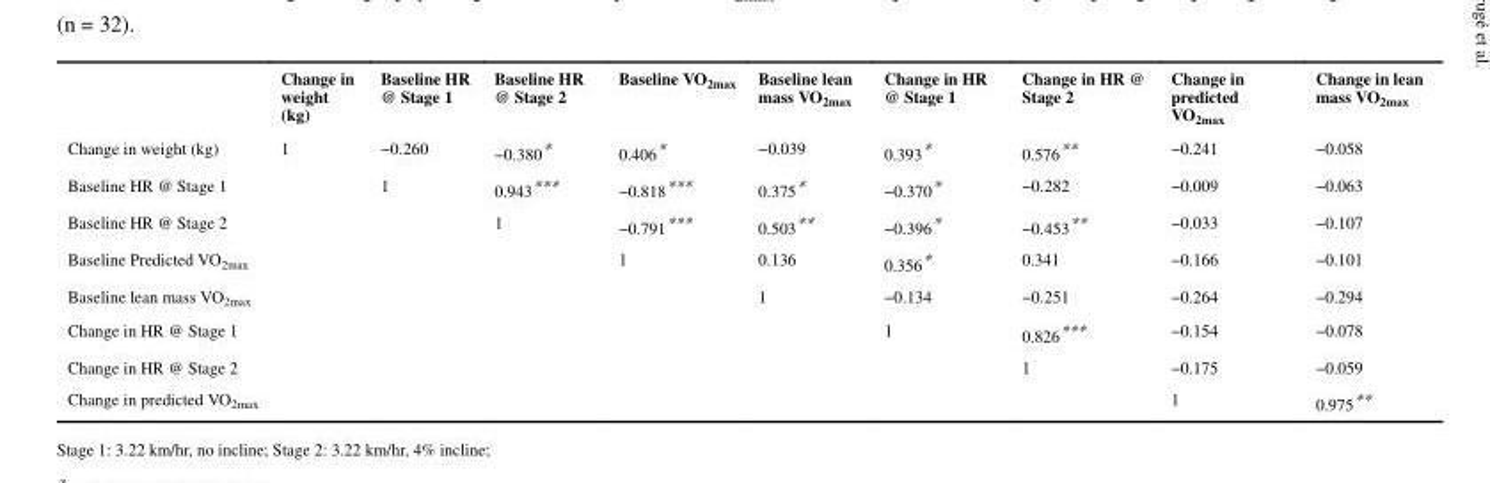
<table><thead><tr><td></td><td>Change in weight (kg)</td><td>Baseline HR @ Stage 1</td><td>Baseline HR @ Stage 2</td><td>Baseline VO<sub>2max</sub></td><td>Baseline lean mass VO<sub>2max</sub></td><td>Change in HR @ Stage 1</td><td>Change in HR @ Stage 2</td><td>Change in predicted VO<sub>2max</sub></td><td>Change in lean mass VO<sub>2max</sub></td></tr></thead><tbody><tr><td>Change in weight (kg)</td><td>1</td><td>−0.260</td><td>−0.380*</td><td>0.406*</td><td>−0.039</td><td>0.393*</td><td>0.576**</td><td>−0.241</td><td>−0.058</td></tr><tr><td>Baseline HR @ Stage 1</td><td></td><td>1</td><td>0.943***</td><td>−0.818***</td><td>0.375*</td><td>−0.370*</td><td>−0.282</td><td>−0.009</td><td>−0.063</td></tr><tr><td>Baseline HR @ Stage 2</td><td></td><td></td><td>1</td><td>−0.791***</td><td>0.503**</td><td>−0.396*</td><td>−0.453**</td><td>−0.033</td><td>−0.107</td></tr><tr><td>Baseline Predicted VO<sub>2max</sub></td><td></td><td></td><td></td><td>1</td><td>0.136</td><td>0.356*</td><td>0.341</td><td>−0.166</td><td>−0.101</td></tr><tr><td>Baseline lean mass VO<sub>2max</sub></td><td></td><td></td><td></td><td></td><td>1</td><td>−0.134</td><td>−0.251</td><td>−0.264</td><td>−0.294</td></tr><tr><td>Change in HR @ Stage 1</td><td></td><td></td><td></td><td></td><td></td><td>1</td><td>0.826***</td><td>−0.154</td><td>−0.078</td></tr><tr><td>Change in HR @ Stage 2</td><td></td><td></td><td></td><td></td><td></td><td></td><td>1</td><td>−0.175</td><td>−0.059</td></tr><tr><td>Change in predicted VO<sub>2max</sub></td><td></td><td></td><td></td><td></td><td></td><td></td><td></td><td>1</td><td>0.975**</td></tr></tbody></table>